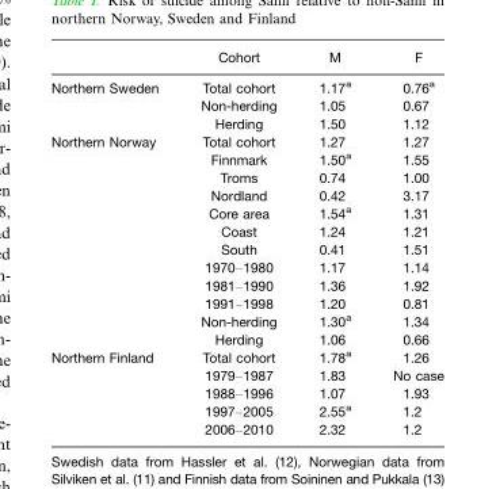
<table><thead><tr><td></td><td>Cohort</td><td>M</td><td>F</td></tr></thead><tbody><tr><td rowspan="3">Northern Sweden</td><td>Total cohort</td><td>1.17<sup>a</sup></td><td>0.76<sup>a</sup></td></tr><tr><td>Non-herding</td><td>1.05</td><td>0.67</td></tr><tr><td>Herding</td><td>1.50</td><td>1.12</td></tr><tr><td rowspan="12">Northern Norway</td><td>Total cohort</td><td>1.27</td><td>1.27</td></tr><tr><td>Finnmark</td><td>1.50<sup>a</sup></td><td>1.55</td></tr><tr><td>Troms</td><td>0.74</td><td>1.00</td></tr><tr><td>Nordland</td><td>0.42</td><td>3.17</td></tr><tr><td>Core area</td><td>1.54<sup>a</sup></td><td>1.31</td></tr><tr><td>Coast</td><td>1.24</td><td>1.21</td></tr><tr><td>South</td><td>0.41</td><td>1.51</td></tr><tr><td>1970–1980</td><td>1.17</td><td>1.14</td></tr><tr><td>1981–1990</td><td>1.36</td><td>1.92</td></tr><tr><td>1991–1998</td><td>1.20</td><td>0.81</td></tr><tr><td>Non-herding</td><td>1.30<sup>a</sup></td><td>1.34</td></tr><tr><td>Herding</td><td>1.06</td><td>0.66</td></tr><tr><td rowspan="5">Northern Finland</td><td>Total cohort</td><td>1.78<sup>a</sup></td><td>1.26</td></tr><tr><td>1979–1987</td><td>1.83</td><td>No case</td></tr><tr><td>1988–1996</td><td>1.07</td><td>1.93</td></tr><tr><td>1997–2005</td><td>2.55<sup>a</sup></td><td>1.2</td></tr><tr><td>2006–2010</td><td>2.32</td><td>1.2</td></tr></tbody></table>